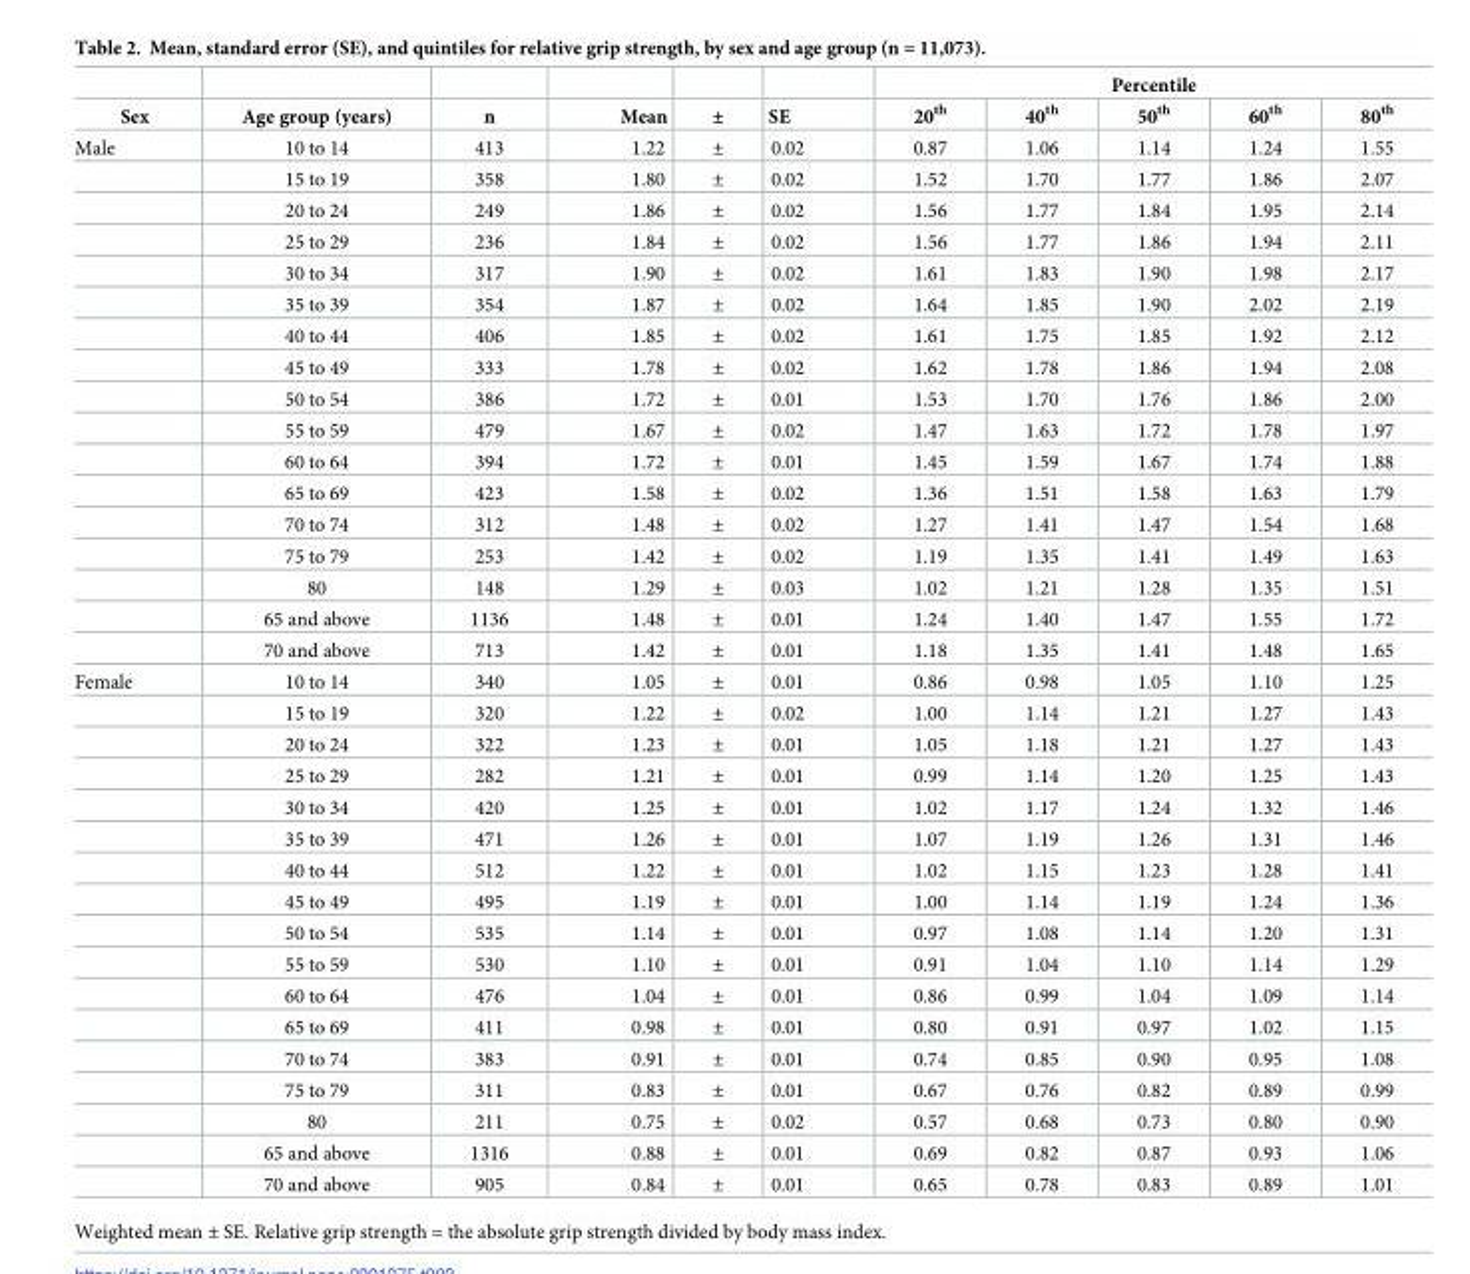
<table><thead><tr><td rowspan="2">Sex</td><td rowspan="2">Age group (years)</td><td rowspan="2">n</td><td rowspan="2">Mean</td><td rowspan="2">±</td><td rowspan="2">SE</td><td colspan="5">Percentile</td></tr><tr><td>20<sup>th</sup></td><td>40<sup>th</sup></td><td>50<sup>th</sup></td><td>60<sup>th</sup></td><td>80<sup>th</sup></td></tr></thead><tbody><tr><td rowspan="17">Male</td><td>10 to 14</td><td>413</td><td>1.22</td><td>±</td><td>0.02</td><td>0.87</td><td>1.06</td><td>1.14</td><td>1.24</td><td>1.55</td></tr><tr><td>15 to 19</td><td>358</td><td>1.80</td><td>±</td><td>0.02</td><td>1.52</td><td>1.70</td><td>1.77</td><td>1.86</td><td>2.07</td></tr><tr><td>20 to 24</td><td>249</td><td>1.86</td><td>±</td><td>0.02</td><td>1.56</td><td>1.77</td><td>1.84</td><td>1.95</td><td>2.14</td></tr><tr><td>25 to 29</td><td>236</td><td>1.84</td><td>±</td><td>0.02</td><td>1.56</td><td>1.77</td><td>1.86</td><td>1.94</td><td>2.11</td></tr><tr><td>30 to 34</td><td>317</td><td>1.90</td><td>±</td><td>0.02</td><td>1.61</td><td>1.83</td><td>1.90</td><td>1.98</td><td>2.17</td></tr><tr><td>35 to 39</td><td>354</td><td>1.87</td><td>±</td><td>0.02</td><td>1.64</td><td>1.85</td><td>1.90</td><td>2.02</td><td>2.19</td></tr><tr><td>40 to 44</td><td>406</td><td>1.85</td><td>±</td><td>0.02</td><td>1.61</td><td>1.75</td><td>1.85</td><td>1.92</td><td>2.12</td></tr><tr><td>45 to 49</td><td>333</td><td>1.78</td><td>±</td><td>0.02</td><td>1.62</td><td>1.78</td><td>1.86</td><td>1.94</td><td>2.08</td></tr><tr><td>50 to 54</td><td>386</td><td>1.72</td><td>±</td><td>0.01</td><td>1.53</td><td>1.70</td><td>1.76</td><td>1.86</td><td>2.00</td></tr><tr><td>55 to 59</td><td>479</td><td>1.67</td><td>±</td><td>0.02</td><td>1.47</td><td>1.63</td><td>1.72</td><td>1.78</td><td>1.97</td></tr><tr><td>60 to 64</td><td>394</td><td>1.72</td><td>±</td><td>0.01</td><td>1.45</td><td>1.59</td><td>1.67</td><td>1.74</td><td>1.88</td></tr><tr><td>65 to 69</td><td>423</td><td>1.58</td><td>±</td><td>0.02</td><td>1.36</td><td>1.51</td><td>1.58</td><td>1.63</td><td>1.79</td></tr><tr><td>70 to 74</td><td>312</td><td>1.48</td><td>±</td><td>0.02</td><td>1.27</td><td>1.41</td><td>1.47</td><td>1.54</td><td>1.68</td></tr><tr><td>75 to 79</td><td>253</td><td>1.42</td><td>±</td><td>0.02</td><td>1.19</td><td>1.35</td><td>1.41</td><td>1.49</td><td>1.63</td></tr><tr><td>80</td><td>148</td><td>1.29</td><td>±</td><td>0.03</td><td>1.02</td><td>1.21</td><td>1.28</td><td>1.35</td><td>1.51</td></tr><tr><td>65 and above</td><td>1136</td><td>1.48</td><td>±</td><td>0.01</td><td>1.24</td><td>1.40</td><td>1.47</td><td>1.55</td><td>1.72</td></tr><tr><td>70 and above</td><td>713</td><td>1.42</td><td>±</td><td>0.01</td><td>1.18</td><td>1.35</td><td>1.41</td><td>1.48</td><td>1.65</td></tr><tr><td rowspan="17">Female</td><td>10 to 14</td><td>340</td><td>1.05</td><td>±</td><td>0.01</td><td>0.86</td><td>0.98</td><td>1.05</td><td>1.10</td><td>1.25</td></tr><tr><td>15 to 19</td><td>320</td><td>1.22</td><td>±</td><td>0.02</td><td>1.00</td><td>1.14</td><td>1.21</td><td>1.27</td><td>1.43</td></tr><tr><td>20 to 24</td><td>322</td><td>1.23</td><td>±</td><td>0.01</td><td>1.05</td><td>1.18</td><td>1.21</td><td>1.27</td><td>1.43</td></tr><tr><td>25 to 29</td><td>282</td><td>1.21</td><td>±</td><td>0.01</td><td>0.99</td><td>1.14</td><td>1.20</td><td>1.25</td><td>1.43</td></tr><tr><td>30 to 34</td><td>420</td><td>1.25</td><td>±</td><td>0.01</td><td>1.02</td><td>1.17</td><td>1.24</td><td>1.32</td><td>1.46</td></tr><tr><td>35 to 39</td><td>471</td><td>1.26</td><td>±</td><td>0.01</td><td>1.07</td><td>1.19</td><td>1.26</td><td>1.31</td><td>1.46</td></tr><tr><td>40 to 44</td><td>512</td><td>1.22</td><td>±</td><td>0.01</td><td>1.02</td><td>1.15</td><td>1.23</td><td>1.28</td><td>1.41</td></tr><tr><td>45 to 49</td><td>495</td><td>1.19</td><td>±</td><td>0.01</td><td>1.00</td><td>1.14</td><td>1.19</td><td>1.24</td><td>1.36</td></tr><tr><td>50 to 54</td><td>535</td><td>1.14</td><td>±</td><td>0.01</td><td>0.97</td><td>1.08</td><td>1.14</td><td>1.20</td><td>1.31</td></tr><tr><td>55 to 59</td><td>530</td><td>1.10</td><td>±</td><td>0.01</td><td>0.91</td><td>1.04</td><td>1.10</td><td>1.14</td><td>1.29</td></tr><tr><td>60 to 64</td><td>476</td><td>1.04</td><td>±</td><td>0.01</td><td>0.86</td><td>0.99</td><td>1.04</td><td>1.09</td><td>1.14</td></tr><tr><td>65 to 69</td><td>411</td><td>0.98</td><td>±</td><td>0.01</td><td>0.80</td><td>0.91</td><td>0.97</td><td>1.02</td><td>1.15</td></tr><tr><td>70 to 74</td><td>383</td><td>0.91</td><td>±</td><td>0.01</td><td>0.74</td><td>0.85</td><td>0.90</td><td>0.95</td><td>1.08</td></tr><tr><td>75 to 79</td><td>311</td><td>0.83</td><td>±</td><td>0.01</td><td>0.67</td><td>0.76</td><td>0.82</td><td>0.89</td><td>0.99</td></tr><tr><td>80</td><td>211</td><td>0.75</td><td>±</td><td>0.02</td><td>0.57</td><td>0.68</td><td>0.73</td><td>0.80</td><td>0.90</td></tr><tr><td>65 and above</td><td>1316</td><td>0.88</td><td>±</td><td>0.01</td><td>0.69</td><td>0.82</td><td>0.87</td><td>0.93</td><td>1.06</td></tr><tr><td>70 and above</td><td>905</td><td>0.84</td><td>±</td><td>0.01</td><td>0.65</td><td>0.78</td><td>0.83</td><td>0.89</td><td>1.01</td></tr></tbody></table>